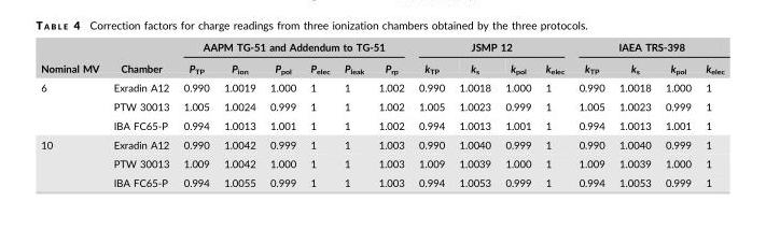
<table><thead><tr><td rowspan="2">Nominal MV</td><td rowspan="2">Chamber</td><td colspan="6">AAPM TG-51 and Addendum to TG-51</td><td colspan="4">JSMP 12</td><td colspan="4">IAEA TRS-398</td></tr><tr><td>P<sub>TP</sub></td><td>P<sub>ion</sub></td><td>P<sub>pol</sub></td><td>P<sub>elec</sub></td><td>P<sub>leak</sub></td><td>P<sub>rp</sub></td><td>k<sub>TP</sub></td><td>k<sub>s</sub></td><td>k<sub>pol</sub></td><td>k<sub>elec</sub></td><td>k<sub>TP</sub></td><td>k<sub>s</sub></td><td>k<sub>pol</sub></td><td>k<sub>elec</sub></td></tr></thead><tbody><tr><td rowspan="3">6</td><td>Exradin A12</td><td>0.990</td><td>1.0019</td><td>1.000</td><td>1</td><td>1</td><td>1.002</td><td>0.990</td><td>1.0018</td><td>1.000</td><td>1</td><td>0.990</td><td>1.0018</td><td>1.000</td><td>1</td></tr><tr><td>PTW 30013</td><td>1.005</td><td>1.0024</td><td>0.999</td><td>1</td><td>1</td><td>1.002</td><td>1.005</td><td>1.0023</td><td>0.999</td><td>1</td><td>1.005</td><td>1.0023</td><td>0.999</td><td>1</td></tr><tr><td>IBA FC65-P</td><td>0.994</td><td>1.0013</td><td>1.001</td><td>1</td><td>1</td><td>1.002</td><td>0.994</td><td>1.0013</td><td>1.001</td><td>1</td><td>0.994</td><td>1.0013</td><td>1.001</td><td>1</td></tr><tr><td rowspan="3">10</td><td>Exradin A12</td><td>0.990</td><td>1.0042</td><td>0.999</td><td>1</td><td>1</td><td>1.003</td><td>0.990</td><td>1.0040</td><td>0.999</td><td>1</td><td>0.990</td><td>1.0040</td><td>0.999</td><td>1</td></tr><tr><td>PTW 30013</td><td>1.009</td><td>1.0042</td><td>1.000</td><td>1</td><td>1</td><td>1.003</td><td>1.009</td><td>1.0039</td><td>1.000</td><td>1</td><td>1.009</td><td>1.0039</td><td>1.000</td><td>1</td></tr><tr><td>IBA FC65-P</td><td>0.994</td><td>1.0055</td><td>0.999</td><td>1</td><td>1</td><td>1.003</td><td>0.994</td><td>1.0053</td><td>0.999</td><td>1</td><td>0.994</td><td>1.0053</td><td>0.999</td><td>1</td></tr></tbody></table>